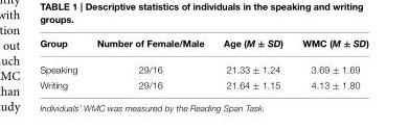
<table><thead><tr><td>Group</td><td>Number of Female/Male</td><td>Age (M ± SD)</td><td>WMC (M ± SD)</td></tr></thead><tbody><tr><td>Speaking</td><td>29/16</td><td>21.33 ± 1.24</td><td>3.69 ± 1.69</td></tr><tr><td>Writing</td><td>29/16</td><td>21.64 ± 1.15</td><td>4.13 ± 1.80</td></tr></tbody></table>